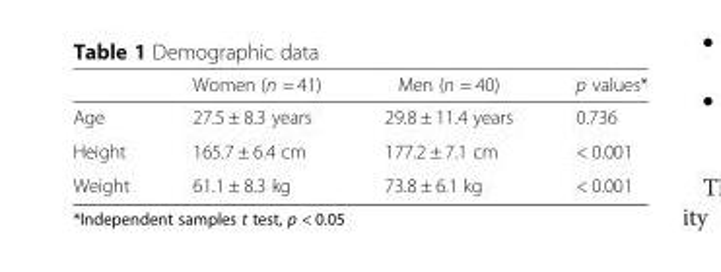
<table><thead><tr><td></td><td>Women (n = 41)</td><td>Men (n = 40)</td><td>p values*</td></tr></thead><tbody><tr><td>Age</td><td>27.5 ± 8.3 years</td><td>29.8 ± 11.4 years</td><td>0.736</td></tr><tr><td>Height</td><td>165.7 ± 6.4 cm</td><td>177.2 ± 7.1 cm</td><td>&lt; 0.001</td></tr><tr><td>Weight</td><td>61.1 ± 8.3 kg</td><td>73.8 ± 6.1 kg</td><td>&lt; 0.001</td></tr></tbody></table>